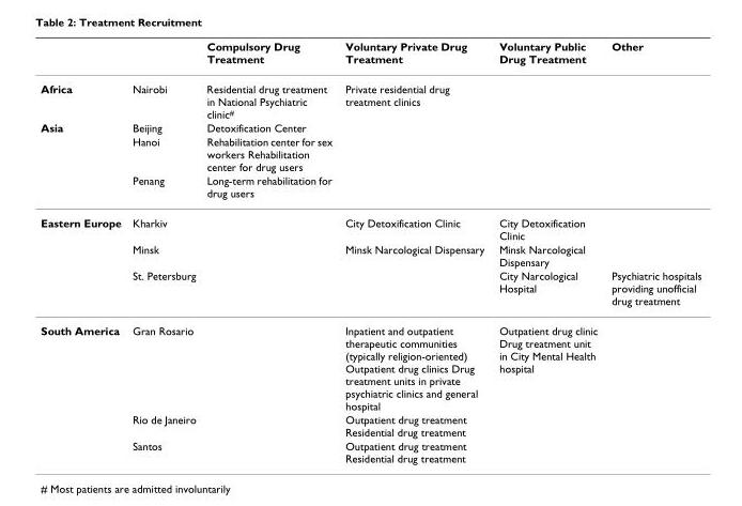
<table><thead><tr><td></td><td></td><td>Compulsory Drug Treatment</td><td>Voluntary Private Drug Treatment</td><td>Voluntary Public Drug Treatment</td><td>Other</td></tr></thead><tbody><tr><td>Africa</td><td>Nairobi</td><td>Residential drug treatment in National Psychiatric clinic#</td><td>Private residential drug treatment clinics</td><td></td><td></td></tr><tr><td rowspan="3">Asia</td><td>Beijing</td><td>Detoxification Center</td><td></td><td></td><td></td></tr><tr><td>Hanoi</td><td>Rehabilitation center for sex workers Rehabilitation center for drug users</td><td></td><td></td><td></td></tr><tr><td>Penang</td><td>Long-term rehabilitation for drug users</td><td></td><td></td><td></td></tr><tr><td rowspan="3">Eastern Europe</td><td>Kharkiv</td><td></td><td>City Detoxification Clinic</td><td>City Detoxification Clinic</td><td></td></tr><tr><td>Minsk</td><td></td><td>Minsk Narcological Dispensary</td><td>Minsk Narcological Dispensary</td><td></td></tr><tr><td>St. Petersburg</td><td></td><td></td><td>City Narcological Hospital</td><td>Psychiatric hospitals providing unofficial drug treatment</td></tr><tr><td rowspan="3">South America</td><td>Gran Rosario</td><td></td><td>Inpatient and outpatient therapeutic communities (typically religion-oriented) Outpatient drug clinics Drug treatment units in private psychiatric clinics and general hospital</td><td>Outpatient drug clinic Drug treatment unit in City Mental Health hospital</td><td></td></tr><tr><td>Rio de Janeiro</td><td></td><td>Outpatient drug treatment Residential drug treatment</td><td></td><td></td></tr><tr><td>Santos</td><td></td><td>Outpatient drug treatment Residential drug treatment</td><td></td><td></td></tr></tbody></table>